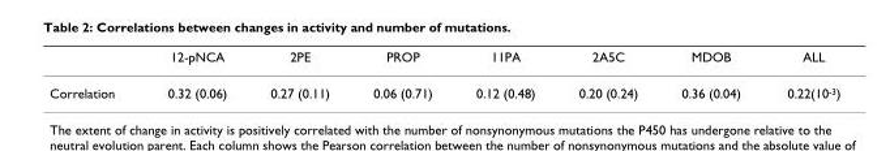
<table><thead><tr><td></td><td>12-pNCA</td><td>2PE</td><td>PROP</td><td>11PA</td><td>2A5C</td><td>MDOB</td><td>ALL</td></tr></thead><tbody><tr><td>Correlation</td><td>0.32 (0.06)</td><td>0.27 (0.11)</td><td>0.06 (0.71)</td><td>0.12 (0.48)</td><td>0.20 (0.24)</td><td>0.36 (0.04)</td><td>0.22(10<sup>-3</sup>)</td></tr></tbody></table>